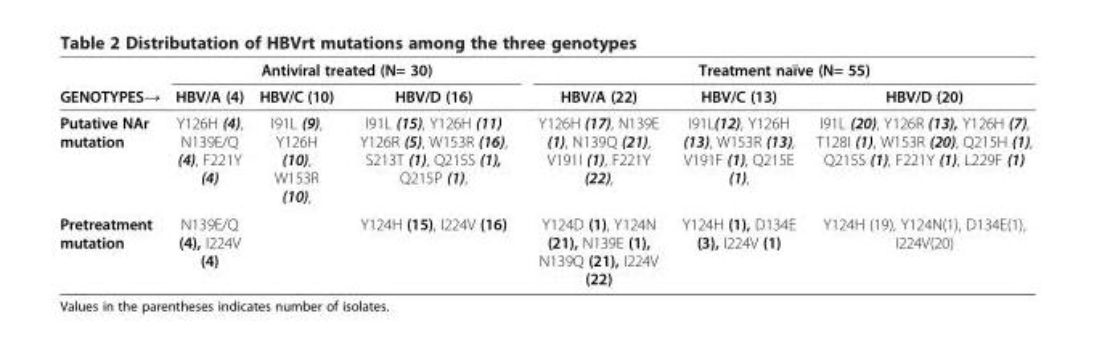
<table><thead><tr><td rowspan="2">GENOTYPES→</td><td colspan="3">Antiviral treated (N= 30)</td><td colspan="3">Treatment naïve (N= 55)</td></tr><tr><td>HBV/A (4)</td><td>HBV/C (10)</td><td>HBV/D (16)</td><td>HBV/A (22)</td><td>HBV/C (13)</td><td>HBV/D (20)</td></tr></thead><tbody><tr><td>Putative NAr mutation</td><td>Y126H (4), N139E/Q (4), F221Y (4)</td><td>I91L (9), Y126H (10), W153R (10),</td><td>I91L (15), Y126H (11) Y126R (5), W153R (16), S213T (1), Q215S (1), Q215P (1),</td><td>Y126H (17), N139E (1), N139Q (21), V191I (1), F221Y (22),</td><td>I91L(12), Y126H (13), W153R (13), V191F (1), Q215E (1),</td><td>I91L (20), Y126R (13), Y126H (7), T128I (1), W153R (20), Q215H (1), Q215S (1), F221Y (1), L229F (1)</td></tr><tr><td>Pretreatment mutation</td><td>N139E/Q (4), I224V (4)</td><td></td><td>Y124H (15), I224V (16)</td><td>Y124D (1), Y124N (21), N139E (1), N139Q (21), I224V (22)</td><td>Y124H (1), D134E (3), I224V (1)</td><td>Y124H (19), Y124N(1), D134E(1), I224V(20)</td></tr></tbody></table>